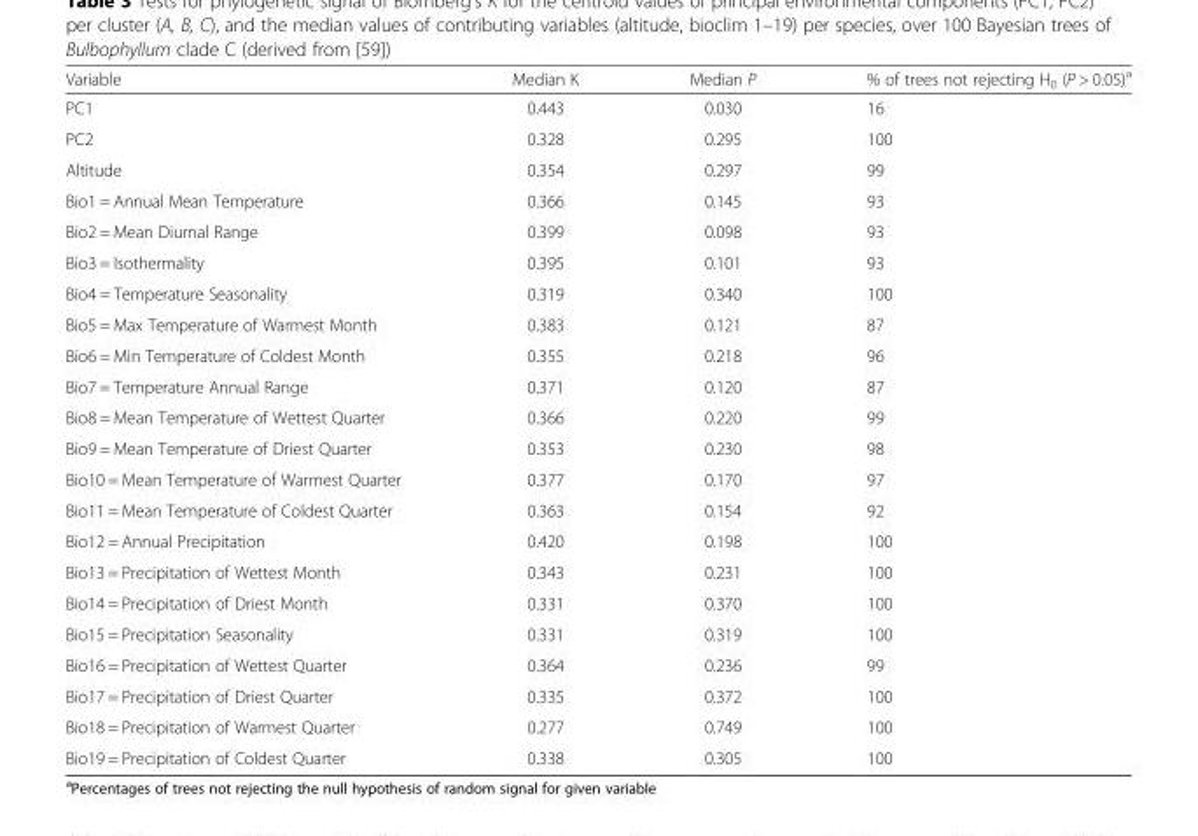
<table><thead><tr><td>Variable</td><td>Median K</td><td>Median P</td><td>% of trees not rejecting H<sub>0</sub> (P &gt; 0.05)<sup>a</sup></td></tr></thead><tbody><tr><td>PC1</td><td>0.443</td><td>0.030</td><td>16</td></tr><tr><td>PC2</td><td>0.328</td><td>0.295</td><td>100</td></tr><tr><td>Altitude</td><td>0.354</td><td>0.297</td><td>99</td></tr><tr><td>Bio1 = Annual Mean Temperature</td><td>0.366</td><td>0.145</td><td>93</td></tr><tr><td>Bio2 = Mean Diurnal Range</td><td>0.399</td><td>0.098</td><td>93</td></tr><tr><td>Bio3 = Isothermality</td><td>0.395</td><td>0.101</td><td>93</td></tr><tr><td>Bio4 = Temperature Seasonality</td><td>0.319</td><td>0.340</td><td>100</td></tr><tr><td>Bio5 = Max Temperature of Warmest Month</td><td>0.383</td><td>0.121</td><td>87</td></tr><tr><td>Bio6 = Min Temperature of Coldest Month</td><td>0.355</td><td>0.218</td><td>96</td></tr><tr><td>Bio7 = Temperature Annual Range</td><td>0.371</td><td>0.120</td><td>87</td></tr><tr><td>Bio8 = Mean Temperature of Wettest Quarter</td><td>0.366</td><td>0.220</td><td>99</td></tr><tr><td>Bio9 = Mean Temperature of Driest Quarter</td><td>0.353</td><td>0.230</td><td>98</td></tr><tr><td>Bio10 = Mean Temperature of Warmest Quarter</td><td>0.377</td><td>0.170</td><td>97</td></tr><tr><td>Bio11 = Mean Temperature of Coldest Quarter</td><td>0.363</td><td>0.154</td><td>92</td></tr><tr><td>Bio12 = Annual Precipitation</td><td>0.420</td><td>0.198</td><td>100</td></tr><tr><td>Bio13 = Precipitation of Wettest Month</td><td>0.343</td><td>0.231</td><td>100</td></tr><tr><td>Bio14 = Precipitation of Driest Month</td><td>0.331</td><td>0.370</td><td>100</td></tr><tr><td>Bio15 = Precipitation Seasonality</td><td>0.331</td><td>0.319</td><td>100</td></tr><tr><td>Bio16 = Precipitation of Wettest Quarter</td><td>0.364</td><td>0.236</td><td>99</td></tr><tr><td>Bio17 = Precipitation of Driest Quarter</td><td>0.335</td><td>0.372</td><td>100</td></tr><tr><td>Bio18 = Precipitation of Warmest Quarter</td><td>0.277</td><td>0.749</td><td>100</td></tr><tr><td>Bio19 = Precipitation of Coldest Quarter</td><td>0.338</td><td>0.305</td><td>100</td></tr></tbody></table>